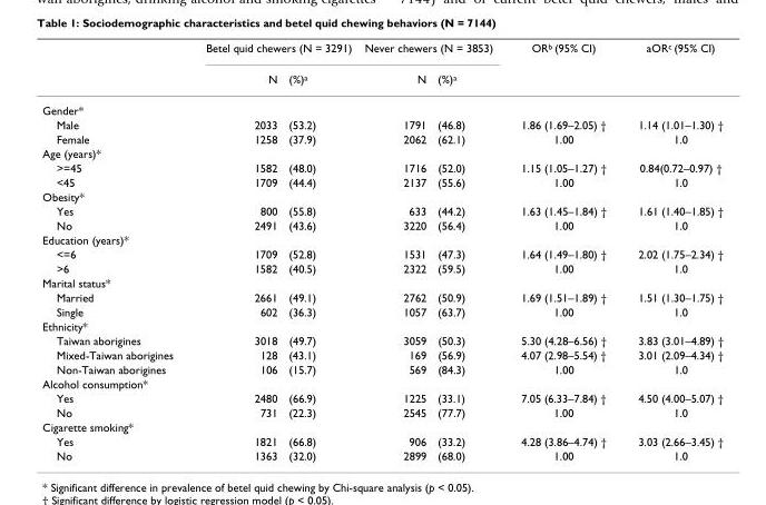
<table><thead><tr><td rowspan="2"></td><td colspan="2">Betel quid chewers (N = 3291)</td><td colspan="2">Never chewers (N = 3853)</td><td rowspan="2">ORb (95% CI)</td><td rowspan="2">aORc (95% CI)</td></tr><tr><td>N</td><td>(%)a</td><td>N</td><td>(%)a</td></tr></thead><tbody><tr><td colspan="7">Gender*</td></tr><tr><td>Male</td><td>2033</td><td>(53.2)</td><td>1791</td><td>(46.8)</td><td>1.86 (1.69–2.05) †</td><td>1.14 (1.01–1.30) †</td></tr><tr><td>Female</td><td>1258</td><td>(37.9)</td><td>2062</td><td>(62.1)</td><td>1.00</td><td>1.0</td></tr><tr><td colspan="7">Age (years)*</td></tr><tr><td>&gt;=45</td><td>1582</td><td>(48.0)</td><td>1716</td><td>(52.0)</td><td>1.15 (1.05–1.27) †</td><td>0.84(0.72–0.97) †</td></tr><tr><td>&lt;45</td><td>1709</td><td>(44.4)</td><td>2137</td><td>(55.6)</td><td>1.00</td><td>1.0</td></tr><tr><td colspan="7">Obesity*</td></tr><tr><td>Yes</td><td>800</td><td>(55.8)</td><td>633</td><td>(44.2)</td><td>1.63 (1.45–1.84) †</td><td>1.61 (1.40–1.85) †</td></tr><tr><td>No</td><td>2491</td><td>(43.6)</td><td>3220</td><td>(56.4)</td><td>1.00</td><td>1.0</td></tr><tr><td colspan="7">Education (years)*</td></tr><tr><td>&lt;=6</td><td>1709</td><td>(52.8)</td><td>1531</td><td>(47.3)</td><td>1.64 (1.49–1.80) †</td><td>2.02 (1.75–2.34) †</td></tr><tr><td>&gt;6</td><td>1582</td><td>(40.5)</td><td>2322</td><td>(59.5)</td><td>1.00</td><td>1.0</td></tr><tr><td colspan="7">Marital status*</td></tr><tr><td>Married</td><td>2661</td><td>(49.1)</td><td>2762</td><td>(50.9)</td><td>1.69 (1.51–1.89) †</td><td>1.51 (1.30–1.75) †</td></tr><tr><td>Single</td><td>602</td><td>(36.3)</td><td>1057</td><td>(63.7)</td><td>1.00</td><td>1.0</td></tr><tr><td colspan="7">Ethnicity*</td></tr><tr><td>Taiwan aborigines</td><td>3018</td><td>(49.7)</td><td>3059</td><td>(50.3)</td><td>5.30 (4.28–6.56) †</td><td>3.83 (3.01–4.89) †</td></tr><tr><td>Mixed-Taiwan aborigines</td><td>128</td><td>(43.1)</td><td>169</td><td>(56.9)</td><td>4.07 (2.98–5.54) †</td><td>3.01 (2.09–4.34) †</td></tr><tr><td>Non-Taiwan aborigines</td><td>106</td><td>(15.7)</td><td>569</td><td>(84.3)</td><td>1.00</td><td>1.0</td></tr><tr><td colspan="7">Alcohol consumption*</td></tr><tr><td>Yes</td><td>2480</td><td>(66.9)</td><td>1225</td><td>(33.1)</td><td>7.05 (6.33–7.84) †</td><td>4.50 (4.00–5.07) †</td></tr><tr><td>No</td><td>731</td><td>(22.3)</td><td>2545</td><td>(77.7)</td><td>1.00</td><td>1.0</td></tr><tr><td colspan="7">Cigarette smoking*</td></tr><tr><td>Yes</td><td>1821</td><td>(66.8)</td><td>906</td><td>(33.2)</td><td>4.28 (3.86–4.74) †</td><td>3.03 (2.66–3.45) †</td></tr><tr><td>No</td><td>1363</td><td>(32.0)</td><td>2899</td><td>(68.0)</td><td>1.00</td><td>1.0</td></tr></tbody></table>